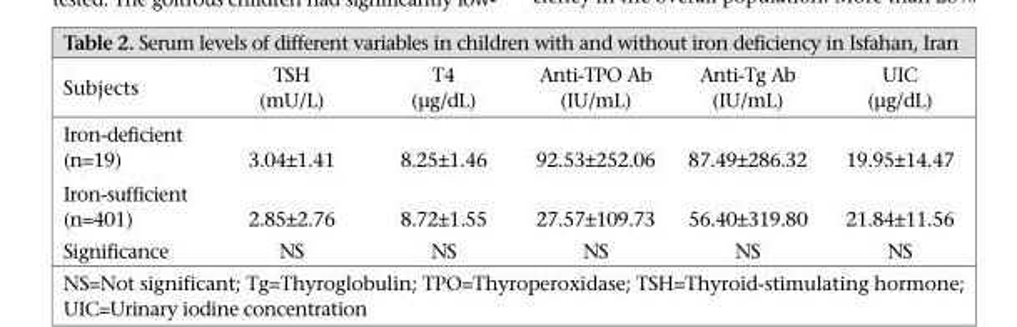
<table><thead><tr><td>Subjects</td><td>TSH (mU/L)</td><td>T4 (μg/dL)</td><td>Anti-TPO Ab (IU/mL)</td><td>Anti-Tg Ab (IU/mL)</td><td>UIC (μg/dL)</td></tr></thead><tbody><tr><td>Iron-deficient (n=19)</td><td>3.04±1.41</td><td>8.25±1.46</td><td>92.53±252.06</td><td>87.49±286.32</td><td>19.95±14.47</td></tr><tr><td>Iron-sufficient (n=401)</td><td>2.85±2.76</td><td>8.72±1.55</td><td>27.57±109.73</td><td>56.40±319.80</td><td>21.84±11.56</td></tr><tr><td>Significance</td><td>NS</td><td>NS</td><td>NS</td><td>NS</td><td>NS</td></tr></tbody></table>